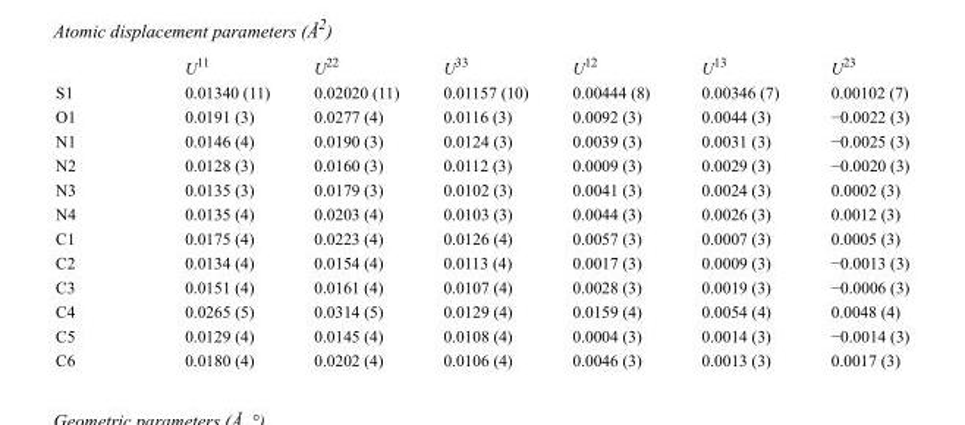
<table><thead><tr><td></td><td>U<sup>11</sup></td><td>U<sup>22</sup></td><td>U<sup>33</sup></td><td>U<sup>12</sup></td><td>U<sup>13</sup></td><td>U<sup>23</sup></td></tr></thead><tbody><tr><td>S1</td><td>0.01340 (11)</td><td>0.02020 (11)</td><td>0.01157 (10)</td><td>0.00444 (8)</td><td>0.00346 (7)</td><td>0.00102 (7)</td></tr><tr><td>O1</td><td>0.0191 (3)</td><td>0.0277 (4)</td><td>0.0116 (3)</td><td>0.0092 (3)</td><td>0.0044 (3)</td><td>−0.0022 (3)</td></tr><tr><td>N1</td><td>0.0146 (4)</td><td>0.0190 (3)</td><td>0.0124 (3)</td><td>0.0039 (3)</td><td>0.0031 (3)</td><td>−0.0025 (3)</td></tr><tr><td>N2</td><td>0.0128 (3)</td><td>0.0160 (3)</td><td>0.0112 (3)</td><td>0.0009 (3)</td><td>0.0029 (3)</td><td>−0.0020 (3)</td></tr><tr><td>N3</td><td>0.0135 (3)</td><td>0.0179 (3)</td><td>0.0102 (3)</td><td>0.0041 (3)</td><td>0.0024 (3)</td><td>0.0002 (3)</td></tr><tr><td>N4</td><td>0.0135 (4)</td><td>0.0203 (4)</td><td>0.0103 (3)</td><td>0.0044 (3)</td><td>0.0026 (3)</td><td>0.0012 (3)</td></tr><tr><td>C1</td><td>0.0175 (4)</td><td>0.0223 (4)</td><td>0.0126 (4)</td><td>0.0057 (3)</td><td>0.0007 (3)</td><td>0.0005 (3)</td></tr><tr><td>C2</td><td>0.0134 (4)</td><td>0.0154 (4)</td><td>0.0113 (4)</td><td>0.0017 (3)</td><td>0.0009 (3)</td><td>−0.0013 (3)</td></tr><tr><td>C3</td><td>0.0151 (4)</td><td>0.0161 (4)</td><td>0.0107 (4)</td><td>0.0028 (3)</td><td>0.0019 (3)</td><td>−0.0006 (3)</td></tr><tr><td>C4</td><td>0.0265 (5)</td><td>0.0314 (5)</td><td>0.0129 (4)</td><td>0.0159 (4)</td><td>0.0054 (4)</td><td>0.0048 (4)</td></tr><tr><td>C5</td><td>0.0129 (4)</td><td>0.0145 (4)</td><td>0.0108 (4)</td><td>0.0004 (3)</td><td>0.0014 (3)</td><td>−0.0014 (3)</td></tr><tr><td>C6</td><td>0.0180 (4)</td><td>0.0202 (4)</td><td>0.0106 (4)</td><td>0.0046 (3)</td><td>0.0013 (3)</td><td>0.0017 (3)</td></tr></tbody></table>